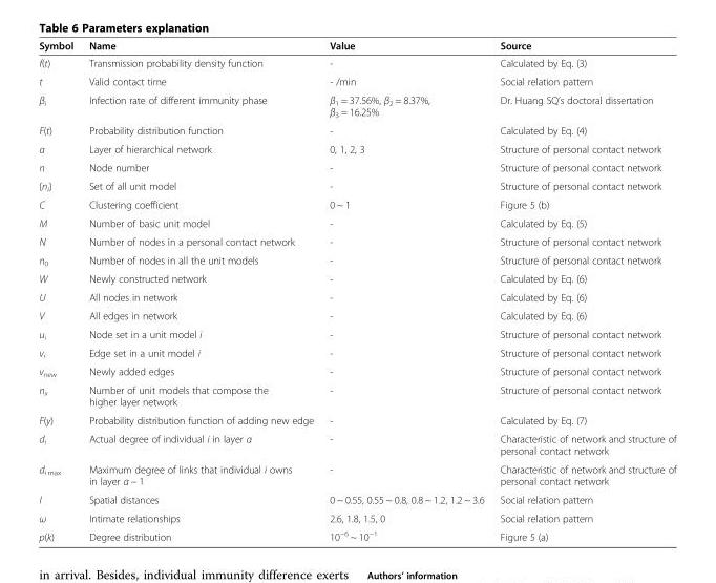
<table><thead><tr><td>Symbol</td><td>Name</td><td>Value</td><td>Source</td></tr></thead><tbody><tr><td>f(t)</td><td>Transmission probability density function</td><td>-</td><td>Calculated by Eq. (3)</td></tr><tr><td>t</td><td>Valid contact time</td><td>- /min</td><td>Social relation pattern</td></tr><tr><td>β<sub>i</sub></td><td>Infection rate of different immunity phase</td><td>β<sub>1</sub> = 37.56%, β<sub>2</sub> = 8.37%, β<sub>3</sub> = 16.25%</td><td>Dr. Huang SQ’s doctoral dissertation</td></tr><tr><td>F(t)</td><td>Probability distribution function</td><td>-</td><td>Calculated by Eq. (4)</td></tr><tr><td>α</td><td>Layer of hierarchical network</td><td>0, 1, 2, 3</td><td>Structure of personal contact network</td></tr><tr><td>n</td><td>Node number</td><td>-</td><td>Structure of personal contact network</td></tr><tr><td>{n<sub>i</sub>}</td><td>Set of all unit model</td><td>-</td><td>Structure of personal contact network</td></tr><tr><td>C</td><td>Clustering coefficient</td><td>0 ~ 1</td><td>Figure 5 (b)</td></tr><tr><td>M</td><td>Number of basic unit model</td><td>-</td><td>Calculated by Eq. (5)</td></tr><tr><td>N</td><td>Number of nodes in a personal contact network</td><td>-</td><td>Structure of personal contact network</td></tr><tr><td>n<sub>0</sub></td><td>Number of nodes in all the unit models</td><td>-</td><td>Structure of personal contact network</td></tr><tr><td>W</td><td>Newly constructed network</td><td>-</td><td>Calculated by Eq. (6)</td></tr><tr><td>U</td><td>All nodes in network</td><td>-</td><td>Calculated by Eq. (6)</td></tr><tr><td>V</td><td>All edges in network</td><td>-</td><td>Calculated by Eq. (6)</td></tr><tr><td>u<sub>i</sub></td><td>Node set in a unit model i</td><td>-</td><td>Structure of personal contact network</td></tr><tr><td>v<sub>i</sub></td><td>Edge set in a unit model i</td><td>-</td><td>Structure of personal contact network</td></tr><tr><td>v<sub>new</sub></td><td>Newly added edges</td><td>-</td><td>Structure of personal contact network</td></tr><tr><td>n<sub>x</sub></td><td>Number of unit models that compose the higher layer network</td><td>-</td><td>Structure of personal contact network</td></tr><tr><td>F(y)</td><td>Probability distribution function of adding new edge</td><td>-</td><td>Calculated by Eq. (7)</td></tr><tr><td>d<sub>i</sub></td><td>Actual degree of individual i in layer α</td><td>-</td><td>Characteristic of network and structure of personal contact network</td></tr><tr><td>d<sub>i max</sub></td><td>Maximum degree of links that individual i owns in layer α − 1</td><td>-</td><td>Characteristic of network and structure of personal contact network</td></tr><tr><td>l</td><td>Spatial distances</td><td>0 ~ 0.55, 0.55 ~ 0.8, 0.8 ~ 1.2, 1.2 ~ 3.6</td><td>Social relation pattern</td></tr><tr><td>ω</td><td>Intimate relationships</td><td>2.6, 1.8, 1.5, 0</td><td>Social relation pattern</td></tr><tr><td>p(k)</td><td>Degree distribution</td><td>10<sup>−6</sup> ~ 10<sup>−1</sup></td><td>Figure 5 (a)</td></tr></tbody></table>